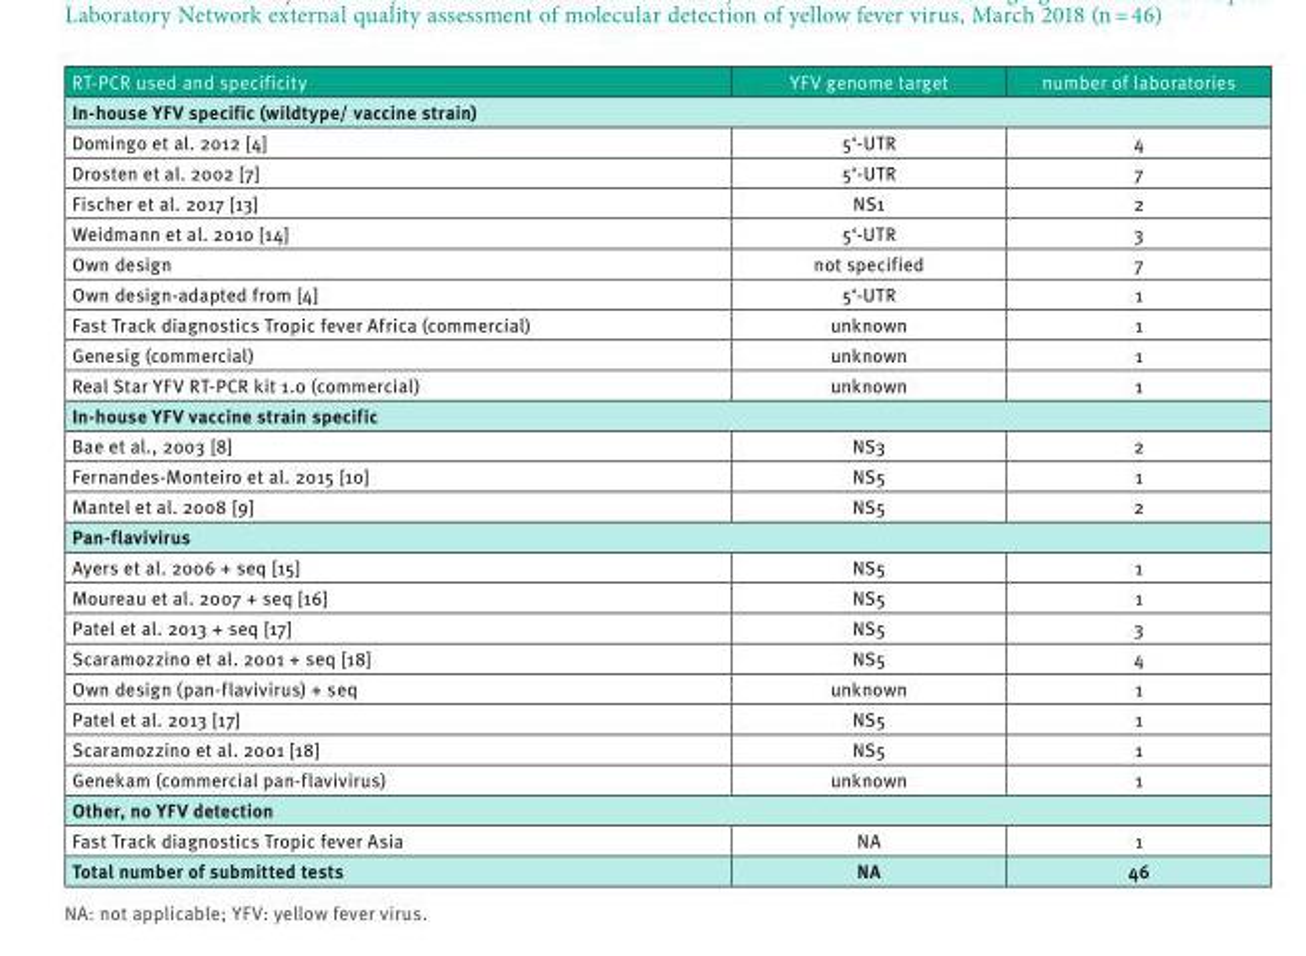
<table><thead><tr><td>RT-PCR used and specificity</td><td>YFV genome target</td><td>number of laboratories</td></tr></thead><tbody><tr><td colspan="3">In-house YFV specific (wildtype/ vaccine strain)</td></tr><tr><td>Domingo et al. 2012 [4]</td><td>5‘-UTR</td><td>4</td></tr><tr><td>Drosten et al. 2002 [7]</td><td>5‘-UTR</td><td>7</td></tr><tr><td>Fischer et al. 2017 [13]</td><td>NS1</td><td>2</td></tr><tr><td>Weidmann et al. 2010 [14]</td><td>5‘-UTR</td><td>3</td></tr><tr><td>Own design</td><td>not specified</td><td>7</td></tr><tr><td>Own design-adapted from [4]</td><td>5‘-UTR</td><td>1</td></tr><tr><td>Fast Track diagnostics Tropic fever Africa (commercial)</td><td>unknown</td><td>1</td></tr><tr><td>Genesig (commercial)</td><td>unknown</td><td>1</td></tr><tr><td>Real Star YFV RT-PCR kit 1.0 (commercial)</td><td>unknown</td><td>1</td></tr><tr><td colspan="3">In-house YFV vaccine strain specific</td></tr><tr><td>Bae et al., 2003 [8]</td><td>NS3</td><td>2</td></tr><tr><td>Fernandes-Monteiro et al. 2015 [10]</td><td>NS5</td><td>1</td></tr><tr><td>Mantel et al. 2008 [9]</td><td>NS5</td><td>2</td></tr><tr><td colspan="3">Pan-flavivirus</td></tr><tr><td>Ayers et al. 2006 + seq [15]</td><td>NS5</td><td>1</td></tr><tr><td>Moureau et al. 2007 + seq [16]</td><td>NS5</td><td>1</td></tr><tr><td>Patel et al. 2013 + seq [17]</td><td>NS5</td><td>3</td></tr><tr><td>Scaramozzino et al. 2001 + seq [18]</td><td>NS5</td><td>4</td></tr><tr><td>Own design (pan-flavivirus) + seq</td><td>unknown</td><td>1</td></tr><tr><td>Patel et al. 2013 [17]</td><td>NS5</td><td>1</td></tr><tr><td>Scaramozzino et al. 2001 [18]</td><td>NS5</td><td>1</td></tr><tr><td>Genekam (commercial pan-flavivirus)</td><td>unknown</td><td>1</td></tr><tr><td colspan="3">Other, no YFV detection</td></tr><tr><td>Fast Track diagnostics Tropic fever Asia</td><td>NA</td><td>1</td></tr><tr><td>Total number of submitted tests</td><td>NA</td><td>46</td></tr></tbody></table>